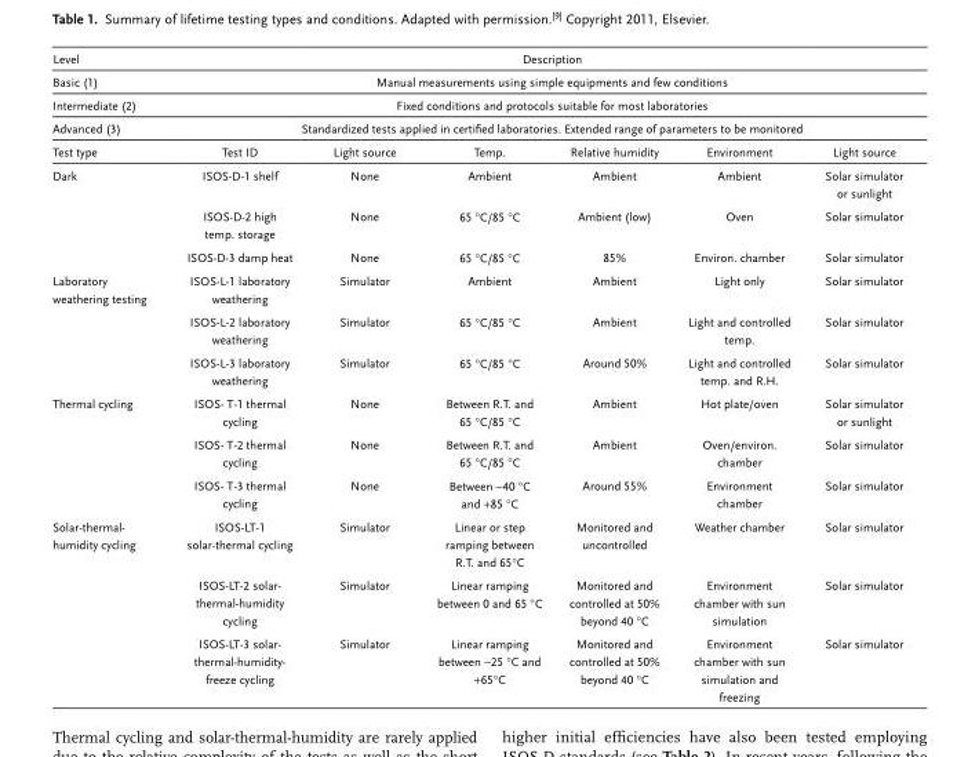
<table><thead><tr><td rowspan="5">Level Basic (1) Intermediate (2) Advanced (3) Test type</td><td rowspan="4" colspan="6">Description Manual measurements using simple equipments and few conditions Fixed conditions and protocols suitable for most laboratories Standardized tests applied in certified laboratories. Extended range of parameters to be monitored</td></tr><tr></tr><tr></tr><tr></tr><tr><td>Test ID</td><td>Light source</td><td>Temp.</td><td>Relative humidity</td><td>Environment</td><td>Light source</td></tr></thead><tbody><tr><td rowspan="3">Dark</td><td>ISOS-D-1 shelf</td><td>None</td><td>Ambient</td><td>Ambient</td><td>Ambient</td><td>Solar simulator or sunlight</td></tr><tr><td>ISOS-D-2 high temp. storage</td><td>None</td><td>65 °C/85 °C</td><td>Ambient (low)</td><td>Oven</td><td>Solar simulator</td></tr><tr><td>ISOS-D-3 damp heat</td><td>None</td><td>65 °C/85 °C</td><td>85%</td><td>Environ. chamber</td><td>Solar simulator</td></tr><tr><td rowspan="3">Laboratory weathering testing</td><td>ISOS-L-1 laboratory weathering</td><td>Simulator</td><td>Ambient</td><td>Ambient</td><td>Light only</td><td>Solar simulator</td></tr><tr><td>ISOS-L-2 laboratory weathering</td><td>Simulator</td><td>65 °C/85 °C</td><td>Ambient</td><td>Light and controlled temp.</td><td>Solar simulator</td></tr><tr><td>ISOS-L-3 laboratory weathering</td><td>Simulator</td><td>65 °C/85 °C</td><td>Around 50%</td><td>Light and controlled temp. and R.H.</td><td>Solar simulator</td></tr><tr><td rowspan="3">Thermal cycling</td><td>ISOS- T-1 thermal cycling</td><td>None</td><td>Between R.T. and 65 °C/85 °C</td><td>Ambient</td><td>Hot plate/oven</td><td>Solar simulator or sunlight</td></tr><tr><td>ISOS- T-2 thermal cycling</td><td>None</td><td>Between R.T. and 65 °C/85 °C</td><td>Ambient</td><td>Oven/environ. chamber</td><td>Solar simulator</td></tr><tr><td>ISOS- T-3 thermal cycling</td><td>None</td><td>Between −40 °C and +85 °C</td><td>Around 55%</td><td>Environment chamber</td><td>Solar simulator</td></tr><tr><td rowspan="3">Solar-thermal- humidity cycling</td><td>ISOS-LT-1 solar-thermal cycling</td><td>Simulator</td><td>Linear or step ramping between R.T. and 65°C</td><td>Monitored and uncontrolled</td><td>Weather chamber</td><td>Solar simulator</td></tr><tr><td>ISOS-LT-2 solar- thermal-humidity cycling</td><td>Simulator</td><td>Linear ramping between 0 and 65 °C</td><td>Monitored and controlled at 50% beyond 40 °C</td><td>Environment chamber with sun simulation</td><td>Solar simulator</td></tr><tr><td>ISOS-LT-3 solar- thermal-humidity- freeze cycling</td><td>Simulator</td><td>Linear ramping between −25 °C and +65°C</td><td>Monitored and controlled at 50% beyond 40 °C</td><td>Environment chamber with sun simulation and freezing</td><td>Solar simulator</td></tr></tbody></table>